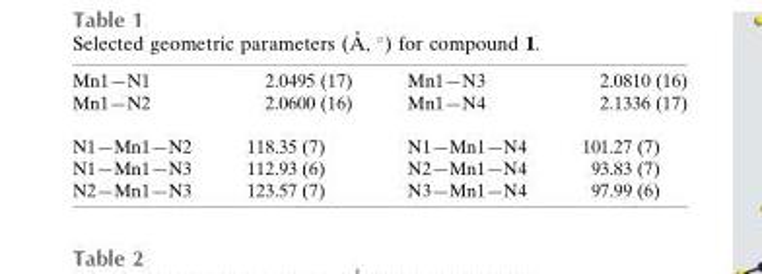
<table><tbody><tr><td>Mn1—N1</td><td>2.0495 (17)</td><td>Mn1—N3</td><td>2.0810 (16)</td></tr><tr><td>Mn1—N2</td><td>2.0600 (16)</td><td>Mn1—N4</td><td>2.1336 (17)</td></tr><tr><td>N1—Mn1—N2</td><td>118.35 (7)</td><td>N1—Mn1—N4</td><td>101.27 (7)</td></tr><tr><td>N1—Mn1—N3</td><td>112.93 (6)</td><td>N2—Mn1—N4</td><td>93.83 (7)</td></tr><tr><td>N2—Mn1—N3</td><td>123.57 (7)</td><td>N3—Mn1—N4</td><td>97.99 (6)</td></tr></tbody></table>